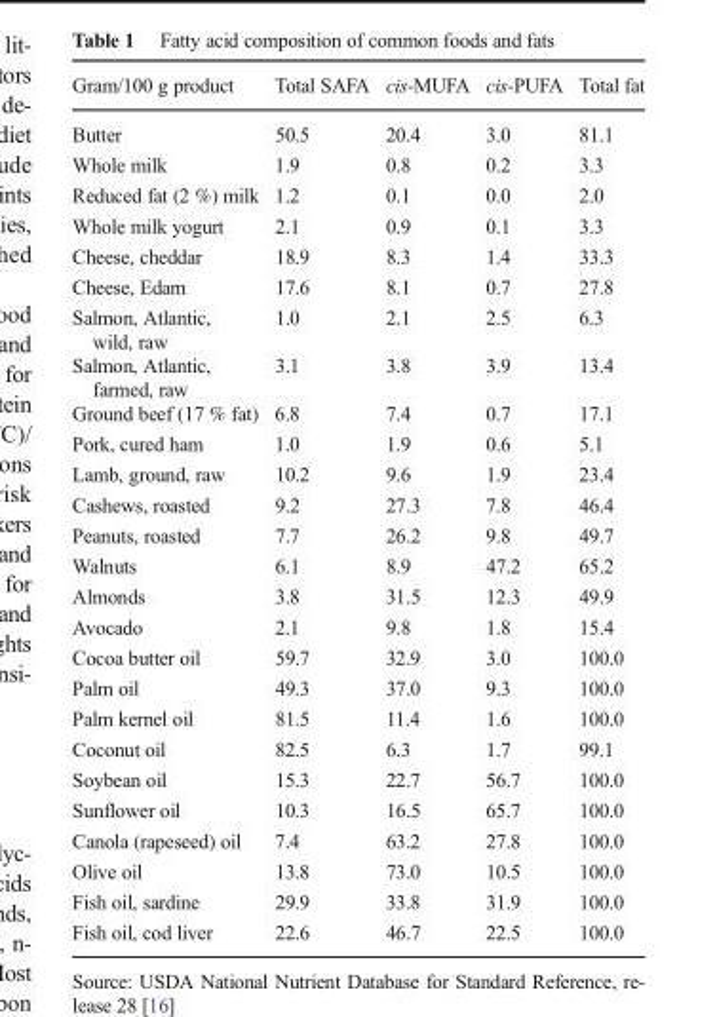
<table><thead><tr><td>Gram/100 g product</td><td>Total SAFA</td><td>cis-MUFA</td><td>cis-PUFA</td><td>Total fat</td></tr></thead><tbody><tr><td>Butter</td><td>50.5</td><td>20.4</td><td>3.0</td><td>81.1</td></tr><tr><td>Whole milk</td><td>1.9</td><td>0.8</td><td>0.2</td><td>3.3</td></tr><tr><td>Reduced fat (2 %) milk</td><td>1.2</td><td>0.1</td><td>0.0</td><td>2.0</td></tr><tr><td>Whole milk yogurt</td><td>2.1</td><td>0.9</td><td>0.1</td><td>3.3</td></tr><tr><td>Cheese, cheddar</td><td>18.9</td><td>8.3</td><td>1.4</td><td>33.3</td></tr><tr><td>Cheese, Edam</td><td>17.6</td><td>8.1</td><td>0.7</td><td>27.8</td></tr><tr><td>Salmon, Atlantic, wild, raw</td><td>1.0</td><td>2.1</td><td>2.5</td><td>6.3</td></tr><tr><td>Salmon, Atlantic, farmed, raw</td><td>3.1</td><td>3.8</td><td>3.9</td><td>13.4</td></tr><tr><td>Ground beef (17 % fat)</td><td>6.8</td><td>7.4</td><td>0.7</td><td>17.1</td></tr><tr><td>Pork, cured ham</td><td>1.0</td><td>1.9</td><td>0.6</td><td>5.1</td></tr><tr><td>Lamb, ground, raw</td><td>10.2</td><td>9.6</td><td>1.9</td><td>23.4</td></tr><tr><td>Cashews, roasted</td><td>9.2</td><td>27.3</td><td>7.8</td><td>46.4</td></tr><tr><td>Peanuts, roasted</td><td>7.7</td><td>26.2</td><td>9.8</td><td>49.7</td></tr><tr><td>Walnuts</td><td>6.1</td><td>8.9</td><td>47.2</td><td>65.2</td></tr><tr><td>Almonds</td><td>3.8</td><td>31.5</td><td>12.3</td><td>49.9</td></tr><tr><td>Avocado</td><td>2.1</td><td>9.8</td><td>1.8</td><td>15.4</td></tr><tr><td>Cocoa butter oil</td><td>59.7</td><td>32.9</td><td>3.0</td><td>100.0</td></tr><tr><td>Palm oil</td><td>49.3</td><td>37.0</td><td>9.3</td><td>100.0</td></tr><tr><td>Palm kernel oil</td><td>81.5</td><td>11.4</td><td>1.6</td><td>100.0</td></tr><tr><td>Coconut oil</td><td>82.5</td><td>6.3</td><td>1.7</td><td>99.1</td></tr><tr><td>Soybean oil</td><td>15.3</td><td>22.7</td><td>56.7</td><td>100.0</td></tr><tr><td>Sunflower oil</td><td>10.3</td><td>16.5</td><td>65.7</td><td>100.0</td></tr><tr><td>Canola (rapeseed) oil</td><td>7.4</td><td>63.2</td><td>27.8</td><td>100.0</td></tr><tr><td>Olive oil</td><td>13.8</td><td>73.0</td><td>10.5</td><td>100.0</td></tr><tr><td>Fish oil, sardine</td><td>29.9</td><td>33.8</td><td>31.9</td><td>100.0</td></tr><tr><td>Fish oil, cod liver</td><td>22.6</td><td>46.7</td><td>22.5</td><td>100.0</td></tr></tbody></table>